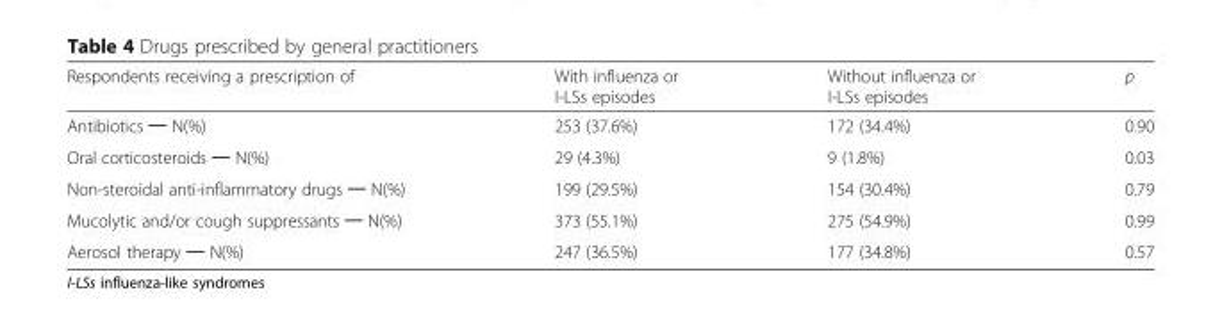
<table><thead><tr><td>Respondents receiving a prescription of</td><td>With influenza or I-LSs episodes</td><td>Without influenza or I-LSs episodes</td><td>p</td></tr></thead><tbody><tr><td>Antibiotics ─ N(%)</td><td>253 (37.6%)</td><td>172 (34.4%)</td><td>0.90</td></tr><tr><td>Oral corticosteroids ─ N(%)</td><td>29 (4.3%)</td><td>9 (1.8%)</td><td>0.03</td></tr><tr><td>Non-steroidal anti-inflammatory drugs ─ N(%)</td><td>199 (29.5%)</td><td>154 (30.4%)</td><td>0.79</td></tr><tr><td>Mucolytic and/or cough suppressants ─ N(%)</td><td>373 (55.1%)</td><td>275 (54.9%)</td><td>0.99</td></tr><tr><td>Aerosol therapy ─ N(%)</td><td>247 (36.5%)</td><td>177 (34.8%)</td><td>0.57</td></tr></tbody></table>